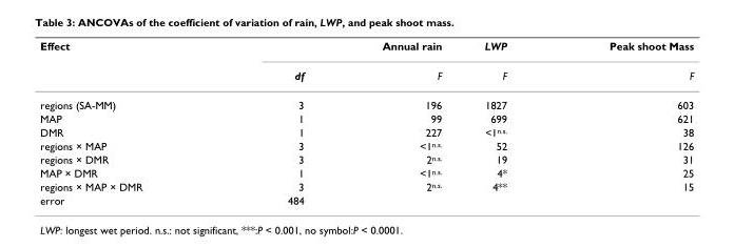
<table><thead><tr><td rowspan="2">Effect</td><td rowspan="2">df</td><td rowspan="2">Annual rain F</td><td rowspan="2">LWP F</td><td rowspan="2">Peak shoot Mass F</td></tr><tr></tr></thead><tbody><tr><td>regions (SA-MM)</td><td>3</td><td>196</td><td>1827</td><td>603</td></tr><tr><td>MAP</td><td>1</td><td>99</td><td>699</td><td>621</td></tr><tr><td>DMR</td><td>1</td><td>227</td><td>&lt;1<sup>n.s.</sup></td><td>38</td></tr><tr><td>regions × MAP</td><td>3</td><td>&lt;1<sup>n.s.</sup></td><td>52</td><td>126</td></tr><tr><td>regions × DMR</td><td>3</td><td>2<sup>n.s.</sup></td><td>19</td><td>31</td></tr><tr><td>MAP × DMR</td><td>1</td><td>&lt;1<sup>n.s.</sup></td><td>4*</td><td>25</td></tr><tr><td>regions × MAP × DMR</td><td>3</td><td>2<sup>n.s.</sup></td><td>4**</td><td>15</td></tr><tr><td>error</td><td>484</td><td></td><td></td><td></td></tr></tbody></table>